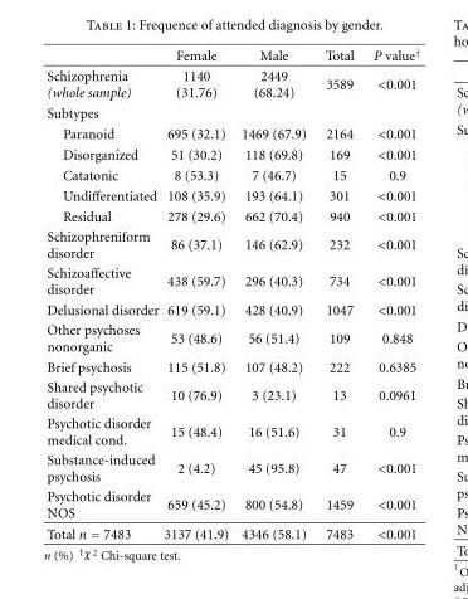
<table><thead><tr><td></td><td>Female</td><td>Male</td><td>Total</td><td>P value<sup>†</sup></td></tr></thead><tbody><tr><td>Schizophrenia (whole sample)</td><td>1140 (31.76)</td><td>2449 (68.24)</td><td>3589</td><td>&lt;0.001</td></tr><tr><td colspan="5">Subtypes</td></tr><tr><td>Paranoid</td><td>695 (32.1)</td><td>1469 (67.9)</td><td>2164</td><td>&lt;0.001</td></tr><tr><td>Disorganized</td><td>51 (30.2)</td><td>118 (69.8)</td><td>169</td><td>&lt;0.001</td></tr><tr><td>Catatonic</td><td>8 (53.3)</td><td>7 (46.7)</td><td>15</td><td>0.9</td></tr><tr><td>Undifferentiated</td><td>108 (35.9)</td><td>193 (64.1)</td><td>301</td><td>&lt;0.001</td></tr><tr><td>Residual</td><td>278 (29.6)</td><td>662 (70.4)</td><td>940</td><td>&lt;0.001</td></tr><tr><td>Schizophreniform disorder</td><td>86 (37.1)</td><td>146 (62.9)</td><td>232</td><td>&lt;0.001</td></tr><tr><td>Schizoaffective disorder</td><td>438 (59.7)</td><td>296 (40.3)</td><td>734</td><td>&lt;0.001</td></tr><tr><td>Delusional disorder</td><td>619 (59.1)</td><td>428 (40.9)</td><td>1047</td><td>&lt;0.001</td></tr><tr><td>Other psychoses nonorganic</td><td>53 (48.6)</td><td>56 (51.4)</td><td>109</td><td>0.848</td></tr><tr><td>Brief psychosis</td><td>115 (51.8)</td><td>107 (48.2)</td><td>222</td><td>0.6385</td></tr><tr><td>Shared psychotic disorder</td><td>10 (76.9)</td><td>3 (23.1)</td><td>13</td><td>0.0961</td></tr><tr><td>Psychotic disorder medical cond.</td><td>15 (48.4)</td><td>16 (51.6)</td><td>31</td><td>0.9</td></tr><tr><td>Substance-induced psychosis</td><td>2 (4.2)</td><td>45 (95.8)</td><td>47</td><td>&lt;0.001</td></tr><tr><td>Psychotic disorder NOS</td><td>659 (45.2)</td><td>800 (54.8)</td><td>1459</td><td>&lt;0.001</td></tr><tr><td>Total n = 7483</td><td>3137 (41.9)</td><td>4346 (58.1)</td><td>7483</td><td>&lt;0.001</td></tr></tbody></table>